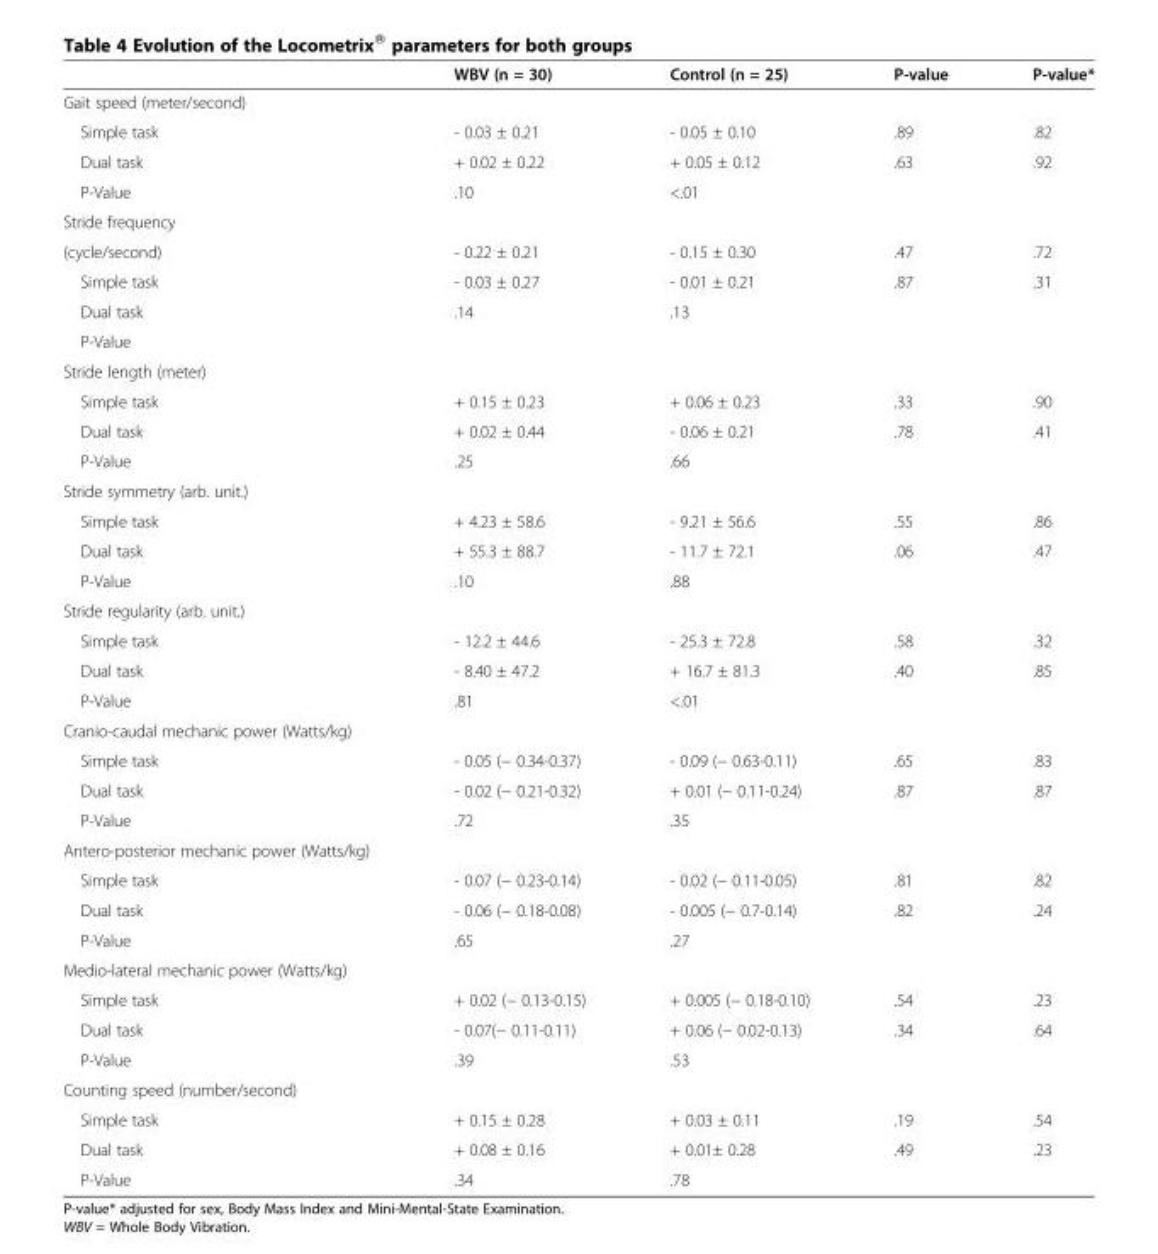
<table><thead><tr><td></td><td>WBV (n = 30)</td><td>Control (n = 25)</td><td>P-value</td><td>P-value*</td></tr></thead><tbody><tr><td colspan="5">Gait speed (meter/second)</td></tr><tr><td>Simple task</td><td>- 0.03 ± 0.21</td><td>- 0.05 ± 0.10</td><td>.89</td><td>.82</td></tr><tr><td>Dual task</td><td>+ 0.02 ± 0.22</td><td>+ 0.05 ± 0.12</td><td>.63</td><td>.92</td></tr><tr><td>P-Value</td><td>.10</td><td>&lt;.01</td><td></td><td></td></tr><tr><td colspan="5">Stride frequency</td></tr><tr><td>(cycle/second)</td><td>- 0.22 ± 0.21</td><td>- 0.15 ± 0.30</td><td>.47</td><td>.72</td></tr><tr><td>Simple task</td><td>- 0.03 ± 0.27</td><td>- 0.01 ± 0.21</td><td>.87</td><td>.31</td></tr><tr><td>Dual task</td><td>.14</td><td>.13</td><td></td><td></td></tr><tr><td colspan="5">P-Value</td></tr><tr><td colspan="5">Stride length (meter)</td></tr><tr><td>Simple task</td><td>+ 0.15 ± 0.23</td><td>+ 0.06 ± 0.23</td><td>.33</td><td>.90</td></tr><tr><td>Dual task</td><td>+ 0.02 ± 0.44</td><td>- 0.06 ± 0.21</td><td>.78</td><td>.41</td></tr><tr><td>P-Value</td><td>.25</td><td>.66</td><td></td><td></td></tr><tr><td colspan="5">Stride symmetry (arb. unit.)</td></tr><tr><td>Simple task</td><td>+ 4.23 ± 58.6</td><td>- 9.21 ± 56.6</td><td>.55</td><td>.86</td></tr><tr><td>Dual task</td><td>+ 55.3 ± 88.7</td><td>- 11.7 ± 72.1</td><td>.06</td><td>.47</td></tr><tr><td>P-Value</td><td>.10</td><td>.88</td><td></td><td></td></tr><tr><td colspan="5">Stride regularity (arb. unit.)</td></tr><tr><td>Simple task</td><td>- 12.2 ± 44.6</td><td>- 25.3 ± 72.8</td><td>.58</td><td>.32</td></tr><tr><td>Dual task</td><td>- 8.40 ± 47.2</td><td>+ 16.7 ± 81.3</td><td>.40</td><td>.85</td></tr><tr><td>P-Value</td><td>.81</td><td>&lt;.01</td><td></td><td></td></tr><tr><td colspan="5">Cranio-caudal mechanic power (Watts/kg)</td></tr><tr><td>Simple task</td><td>- 0.05 (− 0.34-0.37)</td><td>- 0.09 (− 0.63-0.11)</td><td>.65</td><td>.83</td></tr><tr><td>Dual task</td><td>- 0.02 (− 0.21-0.32)</td><td>+ 0.01 (− 0.11-0.24)</td><td>.87</td><td>.87</td></tr><tr><td>P-Value</td><td>.72</td><td>.35</td><td></td><td></td></tr><tr><td colspan="5">Antero-posterior mechanic power (Watts/kg)</td></tr><tr><td>Simple task</td><td>- 0.07 (− 0.23-0.14)</td><td>- 0.02 (− 0.11-0.05)</td><td>.81</td><td>.82</td></tr><tr><td>Dual task</td><td>- 0.06 (− 0.18-0.08)</td><td>- 0.005 (− 0.7-0.14)</td><td>.82</td><td>.24</td></tr><tr><td>P-Value</td><td>.65</td><td>.27</td><td></td><td></td></tr><tr><td colspan="5">Medio-lateral mechanic power (Watts/kg)</td></tr><tr><td>Simple task</td><td>+ 0.02 (− 0.13-0.15)</td><td>+ 0.005 (− 0.18-0.10)</td><td>.54</td><td>.23</td></tr><tr><td>Dual task</td><td>- 0.07(− 0.11-0.11)</td><td>+ 0.06 (− 0.02-0.13)</td><td>.34</td><td>.64</td></tr><tr><td>P-Value</td><td>.39</td><td>.53</td><td></td><td></td></tr><tr><td colspan="5">Counting speed (number/second)</td></tr><tr><td>Simple task</td><td>+ 0.15 ± 0.28</td><td>+ 0.03 ± 0.11</td><td>.19</td><td>.54</td></tr><tr><td>Dual task</td><td>+ 0.08 ± 0.16</td><td>+ 0.01± 0.28</td><td>.49</td><td>.23</td></tr><tr><td>P-Value</td><td>.34</td><td>.78</td><td></td><td></td></tr></tbody></table>